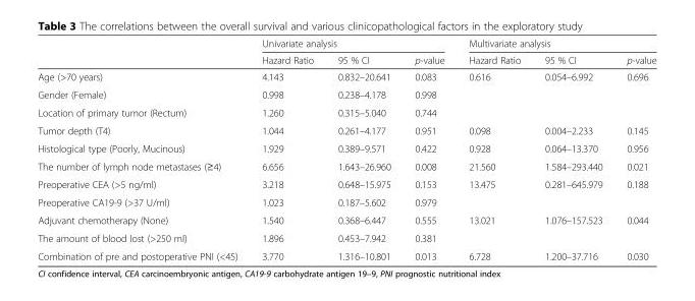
<table><thead><tr><td rowspan="2"></td><td colspan="3">Univariate analysis</td><td colspan="3">Multivariate analysis</td></tr><tr><td>Hazard Ratio</td><td>95 % CI</td><td>p-value</td><td>Hazard Ratio</td><td>95 % CI</td><td>p-value</td></tr></thead><tbody><tr><td>Age (&gt;70 years)</td><td>4.143</td><td>0.832–20.641</td><td>0.083</td><td>0.616</td><td>0.054–6.992</td><td>0.696</td></tr><tr><td>Gender (Female)</td><td>0.998</td><td>0.238–4.178</td><td>0.998</td><td></td><td></td><td></td></tr><tr><td>Location of primary tumor (Rectum)</td><td>1.260</td><td>0.315–5.040</td><td>0.744</td><td></td><td></td><td></td></tr><tr><td>Tumor depth (T4)</td><td>1.044</td><td>0.261–4.177</td><td>0.951</td><td>0.098</td><td>0.004–2.233</td><td>0.145</td></tr><tr><td>Histological type (Poorly, Mucinous)</td><td>1.929</td><td>0.389–9.571</td><td>0.422</td><td>0.928</td><td>0.064–13.370</td><td>0.956</td></tr><tr><td>The number of lymph node metastases (≥4)</td><td>6.656</td><td>1.643–26.960</td><td>0.008</td><td>21.560</td><td>1.584–293.440</td><td>0.021</td></tr><tr><td>Preoperative CEA (&gt;5 ng/ml)</td><td>3.218</td><td>0.648–15.975</td><td>0.153</td><td>13.475</td><td>0.281–645.979</td><td>0.188</td></tr><tr><td>Preoperative CA19-9 (&gt;37 U/ml)</td><td>1.023</td><td>0.187–5.602</td><td>0.979</td><td></td><td></td><td></td></tr><tr><td>Adjuvant chemotherapy (None)</td><td>1.540</td><td>0.368–6.447</td><td>0.555</td><td>13.021</td><td>1.076–157.523</td><td>0.044</td></tr><tr><td>The amount of blood lost (&gt;250 ml)</td><td>1.896</td><td>0.453–7.942</td><td>0.381</td><td></td><td></td><td></td></tr><tr><td>Combination of pre and postoperative PNI (&lt;45)</td><td>3.770</td><td>1.316–10.801</td><td>0.013</td><td>6.728</td><td>1.200–37.716</td><td>0.030</td></tr></tbody></table>